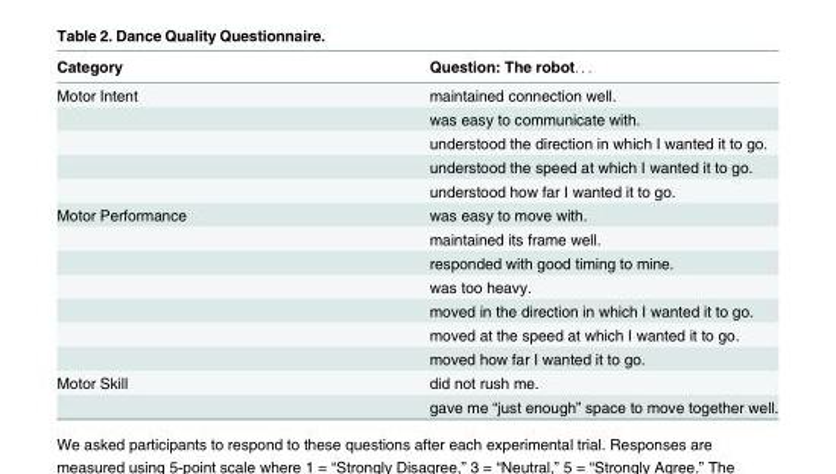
<table><thead><tr><td>Category</td><td>Question: The robot. . .</td></tr></thead><tbody><tr><td rowspan="5">Motor Intent</td><td>maintained connection well.</td></tr><tr><td>was easy to communicate with.</td></tr><tr><td>understood the direction in which I wanted it to go.</td></tr><tr><td>understood the speed at which I wanted it to go.</td></tr><tr><td>understood how far I wanted it to go.</td></tr><tr><td rowspan="7">Motor Performance</td><td>was easy to move with.</td></tr><tr><td>maintained its frame well.</td></tr><tr><td>responded with good timing to mine.</td></tr><tr><td>was too heavy.</td></tr><tr><td>moved in the direction in which I wanted it to go.</td></tr><tr><td>moved at the speed at which I wanted it to go.</td></tr><tr><td>moved how far I wanted it to go.</td></tr><tr><td rowspan="2">Motor Skill</td><td>did not rush me.</td></tr><tr><td>gave me “just enough” space to move together well.</td></tr></tbody></table>